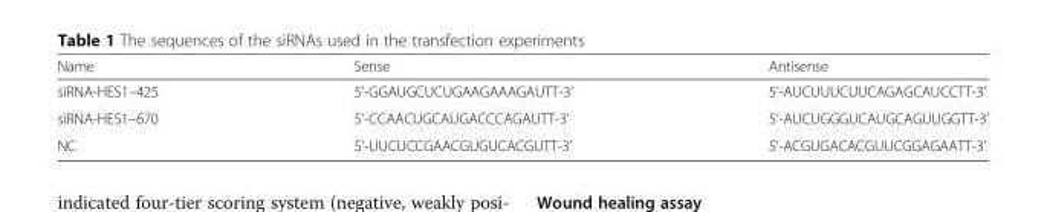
<table><thead><tr><td>Name</td><td>Sense</td><td>Antisense</td></tr></thead><tbody><tr><td>siRNA-HES1–425</td><td>5’-GGAUGCUCUGAAGAAAGAUTT-3’</td><td>5’-AUCUUUCUUCAGAGCAUCCTT-3’</td></tr><tr><td>siRNA-HES1–670</td><td>5’-CCAACUGCAUGACCCAGAUTT-3’</td><td>5’-AUCUGGGUCAUGCAGUUGGTT-3’</td></tr><tr><td>NC</td><td>5’-UUCUCCGAACGUGUCACGUTT-3’</td><td>5’-ACGUGACACGUUCGGAGAATT-3’</td></tr></tbody></table>